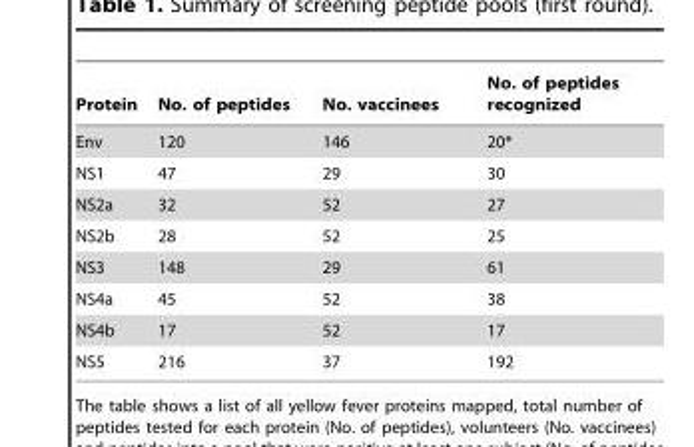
<table><thead><tr><td>Protein</td><td>No. of peptides</td><td>No. vaccinees</td><td>No. of peptides recognized</td></tr></thead><tbody><tr><td>Env</td><td>120</td><td>146</td><td>20*</td></tr><tr><td>NS1</td><td>47</td><td>29</td><td>30</td></tr><tr><td>NS2a</td><td>32</td><td>52</td><td>27</td></tr><tr><td>NS2b</td><td>28</td><td>52</td><td>25</td></tr><tr><td>NS3</td><td>148</td><td>29</td><td>61</td></tr><tr><td>NS4a</td><td>45</td><td>52</td><td>38</td></tr><tr><td>NS4b</td><td>17</td><td>52</td><td>17</td></tr><tr><td>NS5</td><td>216</td><td>37</td><td>192</td></tr></tbody></table>